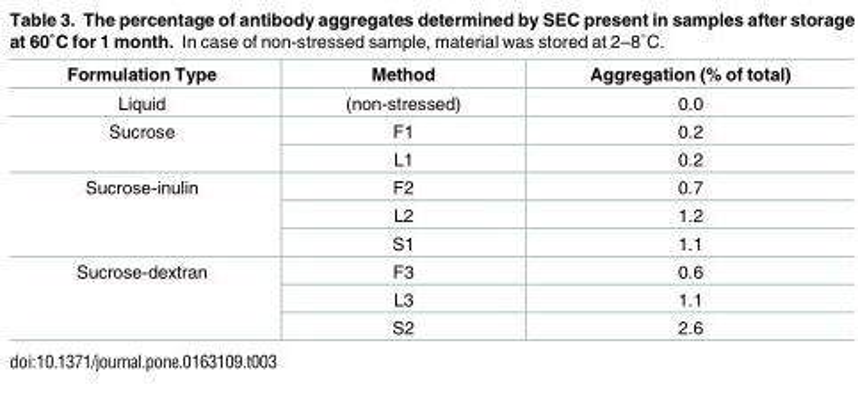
<table><thead><tr><td>Formulation Type</td><td>Method</td><td>Aggregation (% of total)</td></tr></thead><tbody><tr><td>Liquid</td><td>(non-stressed)</td><td>0.0</td></tr><tr><td rowspan="2">Sucrose</td><td>F1</td><td>0.2</td></tr><tr><td>L1</td><td>0.2</td></tr><tr><td rowspan="3">Sucrose-inulin</td><td>F2</td><td>0.7</td></tr><tr><td>L2</td><td>1.2</td></tr><tr><td>S1</td><td>1.1</td></tr><tr><td rowspan="3">Sucrose-dextran</td><td>F3</td><td>0.6</td></tr><tr><td>L3</td><td>1.1</td></tr><tr><td>S2</td><td>2.6</td></tr></tbody></table>